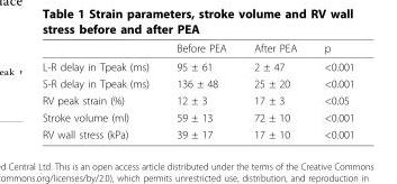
<table><thead><tr><td></td><td>Before PEA</td><td>After PEA</td><td>p</td></tr></thead><tbody><tr><td>L-R delay in Tpeak (ms)</td><td>95 ± 61</td><td>2 ± 47</td><td>&lt;0.001</td></tr><tr><td>S-R delay in Tpeak (ms)</td><td>136 ± 48</td><td>25 ± 20</td><td>&lt;0.001</td></tr><tr><td>RV peak strain (%)</td><td>12 ± 3</td><td>17 ± 3</td><td>&lt;0.05</td></tr><tr><td>Stroke volume (ml)</td><td>59 ± 13</td><td>72 ± 10</td><td>&lt;0.001</td></tr><tr><td>RV wall stress (kPa)</td><td>39 ± 17</td><td>17 ± 10</td><td>&lt;0.001</td></tr></tbody></table>